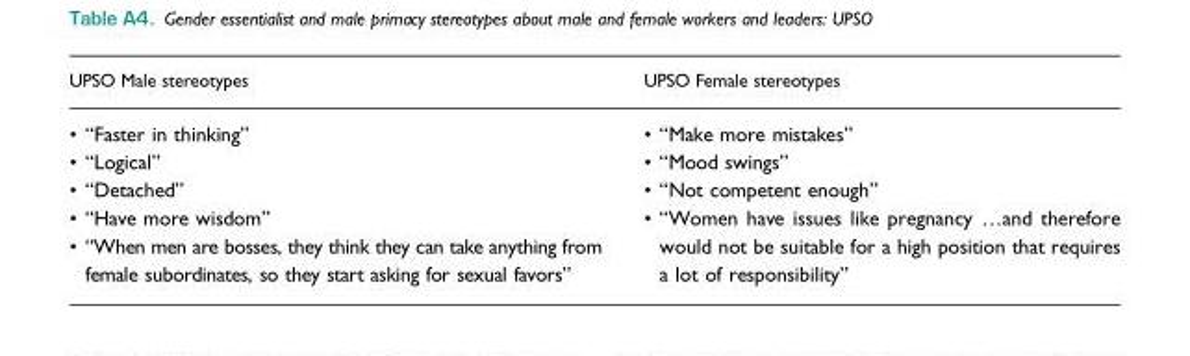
<table><thead><tr><td>UPSO Male stereotypes</td><td>UPSO Female stereotypes</td></tr></thead><tbody><tr><td>• “Faster in thinking” • “Logical” • “Detached” • “Have more wisdom” • “When men are bosses, they think they can take anything from female subordinates, so they start asking for sexual favors”</td><td>• “Make more mistakes” • “Mood swings” • “Not competent enough” • “Women have issues like pregnancy …and therefore would not be suitable for a high position that requires a lot of responsibility”</td></tr></tbody></table>